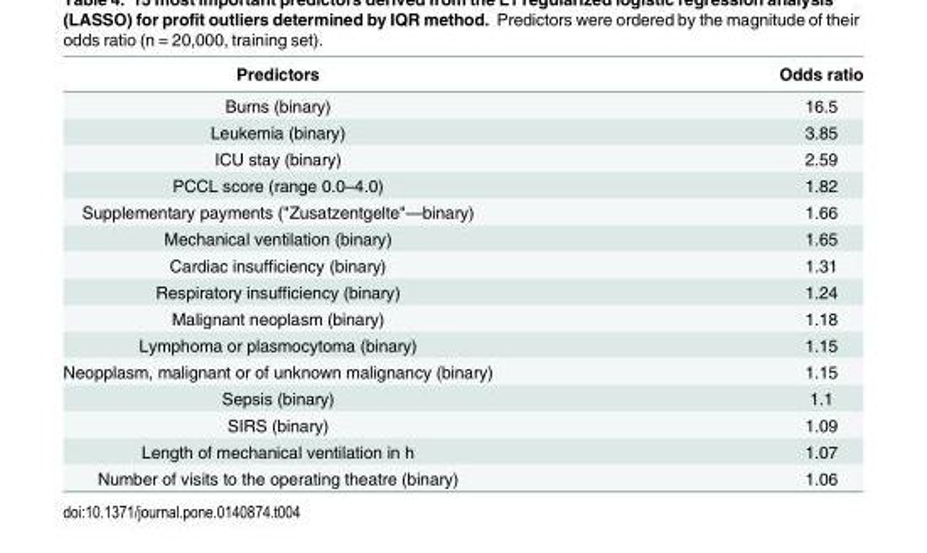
<table><thead><tr><td>Predictors</td><td>Odds ratio</td></tr></thead><tbody><tr><td>Burns (binary)</td><td>16.5</td></tr><tr><td>Leukemia (binary)</td><td>3.85</td></tr><tr><td>ICU stay (binary)</td><td>2.59</td></tr><tr><td>PCCL score (range 0.0–4.0)</td><td>1.82</td></tr><tr><td>Supplementary payments (&quot;Zusatzentgelte&quot;—binary)</td><td>1.66</td></tr><tr><td>Mechanical ventilation (binary)</td><td>1.65</td></tr><tr><td>Cardiac insufficiency (binary)</td><td>1.31</td></tr><tr><td>Respiratory insufficiency (binary)</td><td>1.24</td></tr><tr><td>Malignant neoplasm (binary)</td><td>1.18</td></tr><tr><td>Lymphoma or plasmocytoma (binary)</td><td>1.15</td></tr><tr><td>Neopplasm, malignant or of unknown malignancy (binary)</td><td>1.15</td></tr><tr><td>Sepsis (binary)</td><td>1.1</td></tr><tr><td>SIRS (binary)</td><td>1.09</td></tr><tr><td>Length of mechanical ventilation in h</td><td>1.07</td></tr><tr><td>Number of visits to the operating theatre (binary)</td><td>1.06</td></tr></tbody></table>